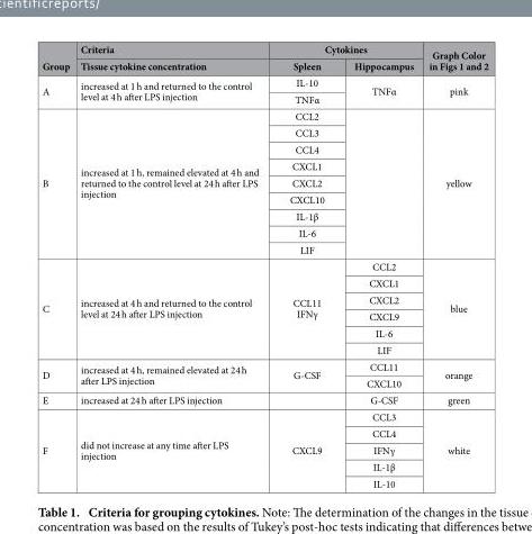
<table><thead><tr><td rowspan="2">Group</td><td rowspan="2">Criteria Tissue cytokine concentration</td><td colspan="2">Cytokines</td><td rowspan="2">Graph Color in Figs 1 and 2</td></tr><tr><td>Spleen</td><td>Hippocampus</td></tr></thead><tbody><tr><td rowspan="2">A</td><td rowspan="2">increased at 1 h and returned to the control level at 4 h after LPS injection</td><td>IL-10</td><td rowspan="2">TNFα</td><td rowspan="2">pink</td></tr><tr><td>TNFα</td></tr><tr><td rowspan="9">B</td><td rowspan="9">increased at 1 h, remained elevated at 4 h and returned to the control level at 24 h after LPS injection</td><td>CCL2</td><td rowspan="9"></td><td rowspan="9">yellow</td></tr><tr><td>CCL3</td></tr><tr><td>CCL4</td></tr><tr><td>CXCL1</td></tr><tr><td>CXCL2</td></tr><tr><td>CXCL10</td></tr><tr><td>IL-1β</td></tr><tr><td>IL-6</td></tr><tr><td>LIF</td></tr><tr><td rowspan="6">C</td><td rowspan="6">increased at 4 h and returned to the control level at 24 h after LPS injection</td><td rowspan="6">CCL11 IFNγ</td><td>CCL2</td><td rowspan="6">blue</td></tr><tr><td>CXCL1</td></tr><tr><td>CXCL2</td></tr><tr><td>CXCL9</td></tr><tr><td>IL-6</td></tr><tr><td>LIF</td></tr><tr><td rowspan="2">D</td><td rowspan="2">increased at 4 h, remained elevated at 24 h after LPS injection</td><td rowspan="2">G-CSF</td><td>CCL11</td><td rowspan="2">orange</td></tr><tr><td>CXCL10</td></tr><tr><td>E</td><td>increased at 24 h after LPS injection</td><td></td><td>G-CSF</td><td>green</td></tr><tr><td rowspan="5">F</td><td rowspan="5">did not increase at any time after LPS injection</td><td rowspan="5">CXCL9</td><td>CCL3</td><td rowspan="5">white</td></tr><tr><td>CCL4</td></tr><tr><td>IFNγ</td></tr><tr><td>IL-1β</td></tr><tr><td>IL-10</td></tr></tbody></table>